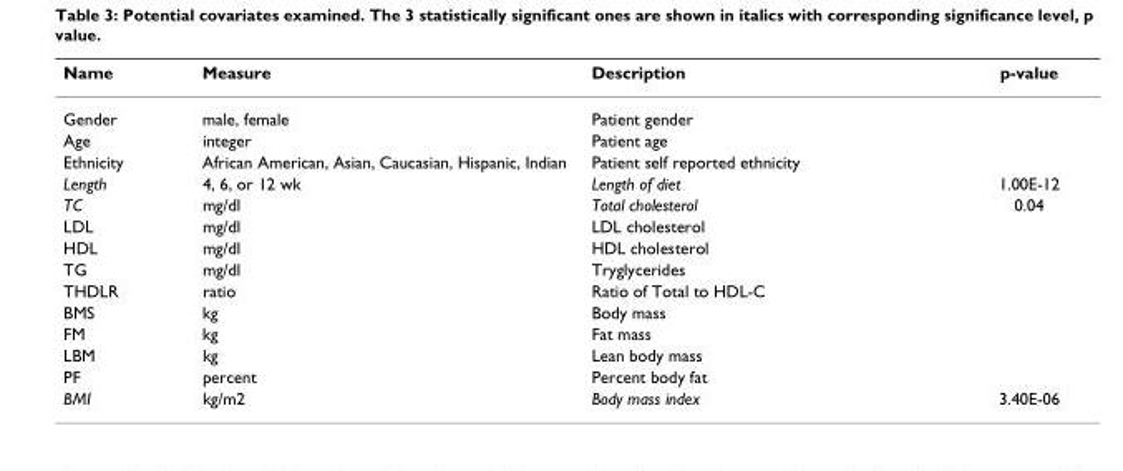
<table><thead><tr><td>Name</td><td>Measure</td><td>Description</td><td>p-value</td></tr></thead><tbody><tr><td>Gender</td><td>male, female</td><td>Patient gender</td><td></td></tr><tr><td>Age</td><td>integer</td><td>Patient age</td><td></td></tr><tr><td>Ethnicity</td><td>African American, Asian, Caucasian, Hispanic, Indian</td><td>Patient self reported ethnicity</td><td></td></tr><tr><td>Length</td><td>4, 6, or 12 wk</td><td>Length of diet</td><td>1.00E-12</td></tr><tr><td>TC</td><td>mg/dl</td><td>Total cholesterol</td><td>0.04</td></tr><tr><td>LDL</td><td>mg/dl</td><td>LDL cholesterol</td><td></td></tr><tr><td>HDL</td><td>mg/dl</td><td>HDL cholesterol</td><td></td></tr><tr><td>TG</td><td>mg/dl</td><td>Tryglycerides</td><td></td></tr><tr><td>THDLR</td><td>ratio</td><td>Ratio of Total to HDL-C</td><td></td></tr><tr><td>BMS</td><td>kg</td><td>Body mass</td><td></td></tr><tr><td>FM</td><td>kg</td><td>Fat mass</td><td></td></tr><tr><td>LBM</td><td>kg</td><td>Lean body mass</td><td></td></tr><tr><td>PF</td><td>percent</td><td>Percent body fat</td><td></td></tr><tr><td>BMI</td><td>kg/m2</td><td>Body mass index</td><td>3.40E-06</td></tr></tbody></table>